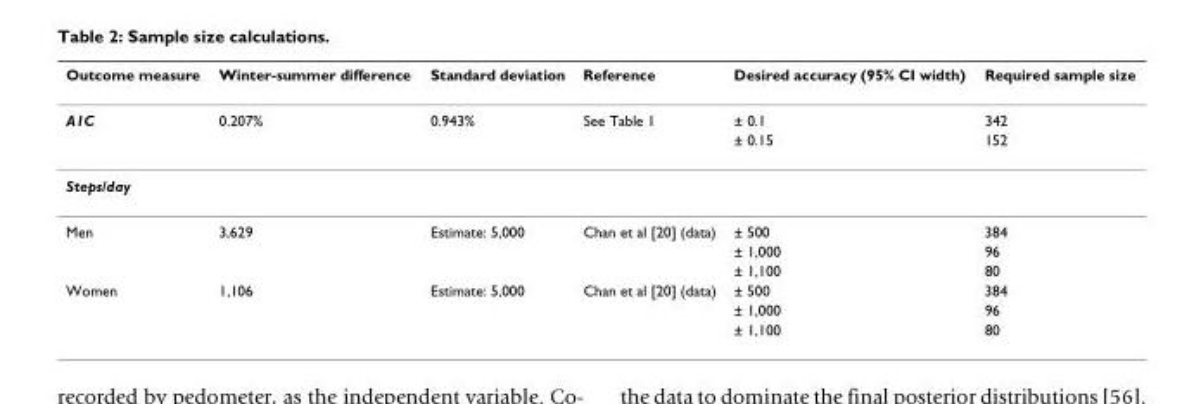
<table><thead><tr><td>Outcome measure</td><td>Winter-summer difference</td><td>Standard deviation</td><td>Reference</td><td>Desired accuracy (95% CI width)</td><td>Required sample size</td></tr></thead><tbody><tr><td rowspan="2">A1C</td><td>0.207%</td><td>0.943%</td><td>See Table 1</td><td>± 0.1</td><td>342</td></tr><tr><td></td><td></td><td></td><td>± 0.15</td><td>152</td></tr><tr><td colspan="6">Steps/day</td></tr><tr><td rowspan="3">Men</td><td>3,629</td><td>Estimate: 5,000</td><td>Chan et al [20] (data)</td><td>± 500</td><td>384</td></tr><tr><td></td><td></td><td></td><td>± 1,000</td><td>96</td></tr><tr><td></td><td></td><td></td><td>± 1,100</td><td>80</td></tr><tr><td rowspan="3">Women</td><td>1,106</td><td>Estimate: 5,000</td><td>Chan et al [20] (data)</td><td>± 500</td><td>384</td></tr><tr><td></td><td></td><td></td><td>± 1,000</td><td>96</td></tr><tr><td></td><td></td><td></td><td>± 1,100</td><td>80</td></tr></tbody></table>